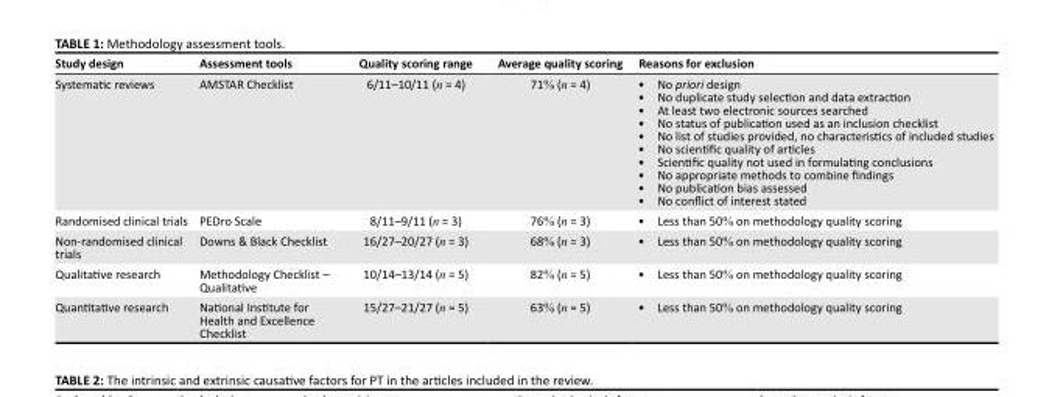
<table><thead><tr><td>Study design</td><td>Assessment tools</td><td>Quality scoring range</td><td>Average quality scoring</td><td>Reasons for exclusion</td></tr></thead><tbody><tr><td>Systematic reviews</td><td>AMSTAR Checklist</td><td>6/11–10/11 (n = 4)</td><td>71% (n = 4)</td><td>• No priori design • No duplicate study selection and data extraction • At least two electronic sources searched • No status of publication used as an inclusion checklist • No list of studies provided, no characteristics of included studies • No scientific quality of articles • Scientific quality not used in formulating conclusions • No appropriate methods to combine findings • No publication bias assessed • No conflict of interest stated</td></tr><tr><td>Randomised clinical trials</td><td>PEDro Scale</td><td>8/11–9/11 (n = 3)</td><td>76% (n = 3)</td><td>• Less than 50% on methodology quality scoring</td></tr><tr><td>Non-randomised clinical trials</td><td>Downs &amp; Black Checklist</td><td>16/27–20/27 (n = 3)</td><td>68% (n = 3)</td><td>• Less than 50% on methodology quality scoring</td></tr><tr><td>Qualitative research</td><td>Methodology Checklist – Qualitative</td><td>10/14–13/14 (n = 5)</td><td>82% (n = 5)</td><td>• Less than 50% on methodology quality scoring</td></tr><tr><td>Quantitative research</td><td>National Institute for Health and Excellence Checklist</td><td>15/27–21/27 (n = 5)</td><td>63% (n = 5)</td><td>• Less than 50% on methodology quality scoring</td></tr></tbody></table>